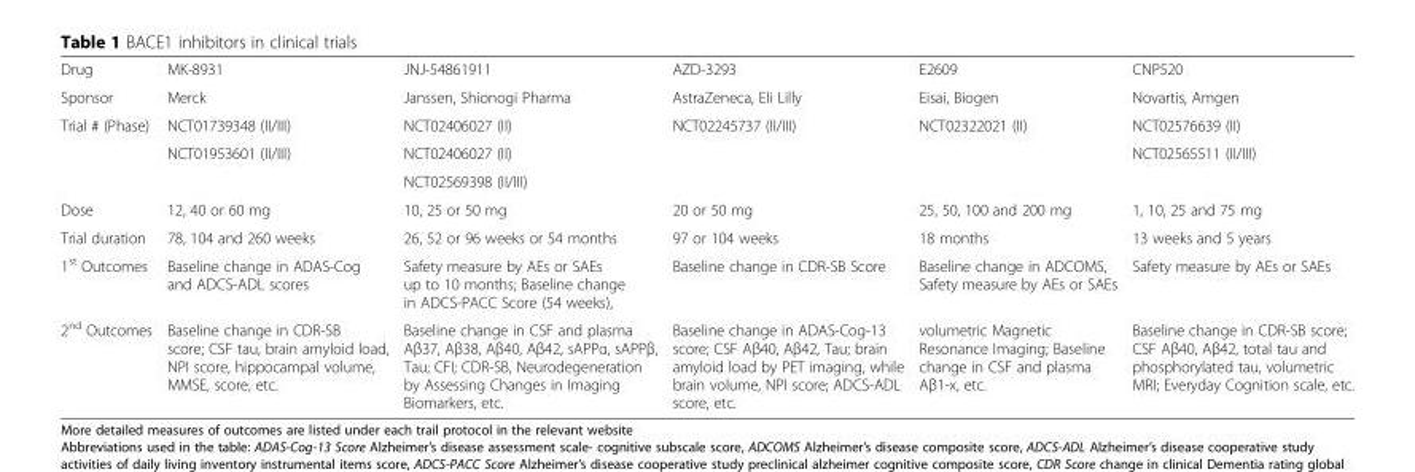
<table><tbody><tr><td>Drug</td><td>MK-8931</td><td>JNJ-54861911</td><td>AZD-3293</td><td>E2609</td><td>CNP520</td></tr><tr><td>Sponsor</td><td>Merck</td><td>Janssen, Shionogi Pharma</td><td>AstraZeneca, Eli Lilly</td><td>Eisai, Biogen</td><td>Novartis, Amgen</td></tr><tr><td rowspan="3">Trial # (Phase)</td><td>NCT01739348 (II/III)</td><td>NCT02406027 (II)</td><td rowspan="3">NCT02245737 (II/III)</td><td rowspan="3">NCT02322021 (II)</td><td>NCT02576639 (II)</td></tr><tr><td rowspan="2">NCT01953601 (II/III)</td><td>NCT02406027 (II)</td><td rowspan="2">NCT02565511 (II/III)</td></tr><tr><td>NCT02569398 (II/III)</td></tr><tr><td>Dose</td><td>12, 40 or 60 mg</td><td>10, 25 or 50 mg</td><td>20 or 50 mg</td><td>25, 50, 100 and 200 mg</td><td>1, 10, 25 and 75 mg</td></tr><tr><td>Trial duration</td><td>78, 104 and 260 weeks</td><td>26, 52 or 96 weeks or 54 months</td><td>97 or 104 weeks</td><td>18 months</td><td>13 weeks and 5 years</td></tr><tr><td>1<sup>st</sup> Outcomes</td><td>Baseline change in ADAS-Cog and ADCS-ADL scores</td><td>Safety measure by AEs or SAEs up to 10 months; Baseline change in ADCS-PACC Score (54 weeks),</td><td>Baseline change in CDR-SB Score</td><td>Baseline change in ADCOMS, Safety measure by AEs or SAEs</td><td>Safety measure by AEs or SAEs</td></tr><tr><td>2<sup>nd</sup> Outcomes</td><td>Baseline change in CDR-SB score; CSF tau, brain amyloid load, NPI score, hippocampal volume, MMSE, score, etc.</td><td>Baseline change in CSF and plasma Aβ37, Aβ38, Aβ40, Aβ42, sAPPα, sAPPβ, Tau; CFI; CDR-SB, Neurodegeneration by Assessing Changes in Imaging Biomarkers, etc.</td><td>Baseline change in ADAS-Cog-13 score; CSF Aβ40, Aβ42, Tau; brain amyloid load by PET imaging, while brain volume, NPI score; ADCS-ADL score, etc.</td><td>volumetric Magnetic Resonance Imaging; Baseline change in CSF and plasma Aβ1-x, etc.</td><td>Baseline change in CDR-SB score; CSF Aβ40, Aβ42, total tau and phosphorylated tau, volumetric MRI; Everyday Cognition scale, etc.</td></tr></tbody></table>